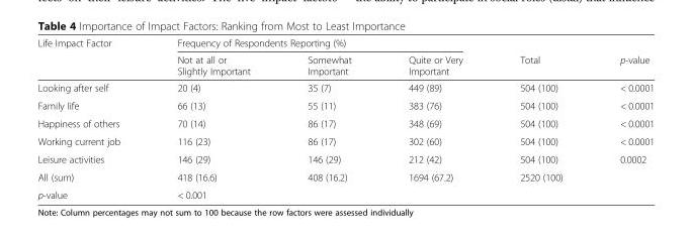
<table><thead><tr><td rowspan="2">Life Impact Factor</td><td colspan="3">Frequency of Respondents Reporting (%)</td><td rowspan="2">Total</td><td rowspan="2">p-value</td></tr><tr><td>Not at all or Slightly Important</td><td>Somewhat Important</td><td>Quite or Very Important</td></tr></thead><tbody><tr><td>Looking after self</td><td>20 (4)</td><td>35 (7)</td><td>449 (89)</td><td>504 (100)</td><td>&lt; 0.0001</td></tr><tr><td>Family life</td><td>66 (13)</td><td>55 (11)</td><td>383 (76)</td><td>504 (100)</td><td>&lt; 0.0001</td></tr><tr><td>Happiness of others</td><td>70 (14)</td><td>86 (17)</td><td>348 (69)</td><td>504 (100)</td><td>&lt; 0.0001</td></tr><tr><td>Working current job</td><td>116 (23)</td><td>86 (17)</td><td>302 (60)</td><td>504 (100)</td><td>&lt; 0.0001</td></tr><tr><td>Leisure activities</td><td>146 (29)</td><td>146 (29)</td><td>212 (42)</td><td>504 (100)</td><td>0.0002</td></tr><tr><td>All (sum)</td><td>418 (16.6)</td><td>408 (16.2)</td><td>1694 (67.2)</td><td>2520 (100)</td><td></td></tr><tr><td>p-value</td><td colspan="3">&lt; 0.001</td><td colspan="2"></td></tr></tbody></table>